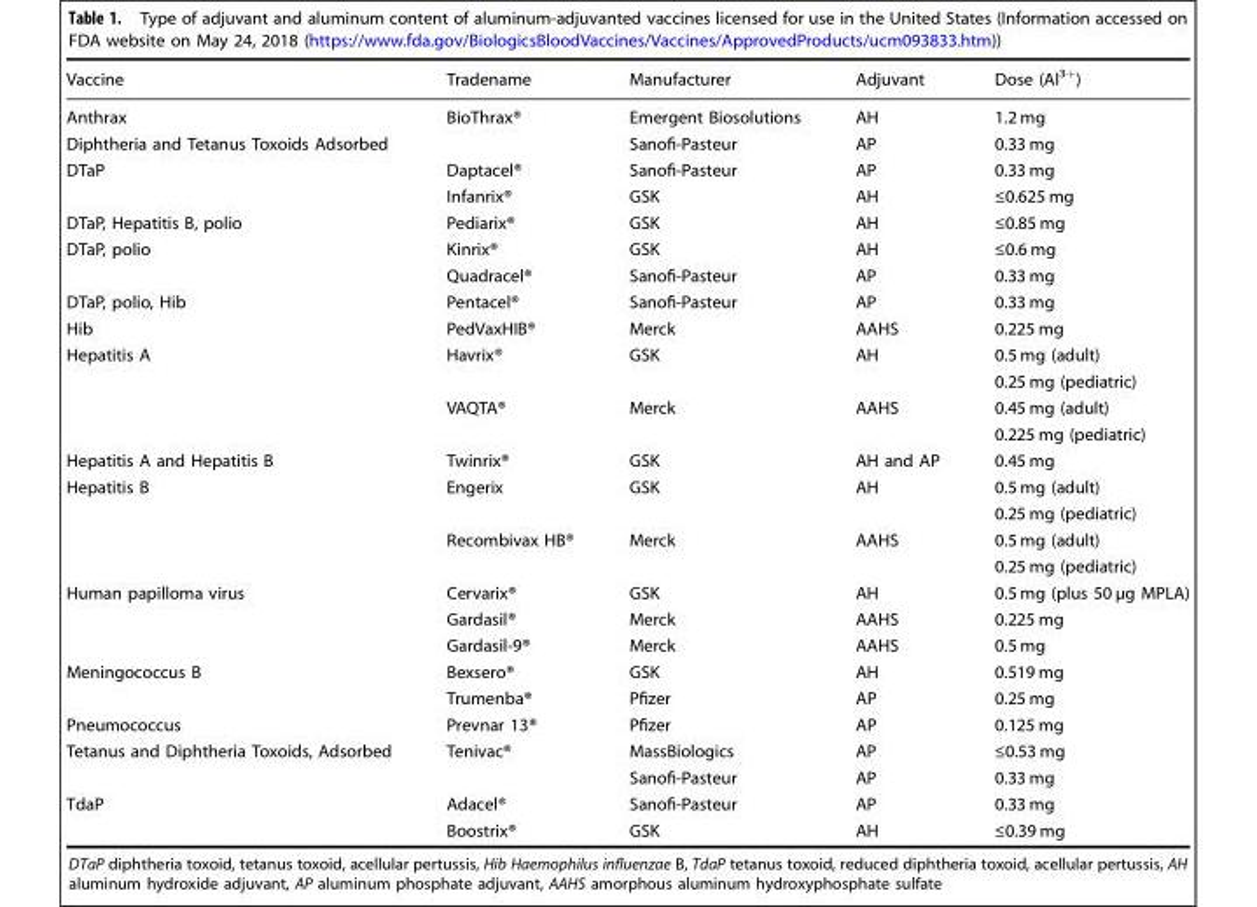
<table><thead><tr><td>Vaccine</td><td>Tradename</td><td>Manufacturer</td><td>Adjuvant</td><td>Dose (Al<sup>3+</sup>)</td></tr></thead><tbody><tr><td>Anthrax</td><td>BioThrax®</td><td>Emergent Biosolutions</td><td>AH</td><td>1.2 mg</td></tr><tr><td>Diphtheria and Tetanus Toxoids Adsorbed</td><td></td><td>Sanofi-Pasteur</td><td>AP</td><td>0.33 mg</td></tr><tr><td rowspan="2">DTaP</td><td>Daptacel®</td><td>Sanofi-Pasteur</td><td>AP</td><td>0.33 mg</td></tr><tr><td>Infanrix®</td><td>GSK</td><td>AH</td><td>≤0.625 mg</td></tr><tr><td>DTaP, Hepatitis B, polio</td><td>Pediarix®</td><td>GSK</td><td>AH</td><td>≤0.85 mg</td></tr><tr><td rowspan="2">DTaP, polio</td><td>Kinrix®</td><td>GSK</td><td>AH</td><td>≤0.6 mg</td></tr><tr><td>Quadracel®</td><td>Sanofi-Pasteur</td><td>AP</td><td>0.33 mg</td></tr><tr><td>DTaP, polio, Hib</td><td>Pentacel®</td><td>Sanofi-Pasteur</td><td>AP</td><td>0.33 mg</td></tr><tr><td>Hib</td><td>PedVaxHIB®</td><td>Merck</td><td>AAHS</td><td>0.225 mg</td></tr><tr><td rowspan="4">Hepatitis A</td><td rowspan="2">Havrix®</td><td rowspan="2">GSK</td><td rowspan="2">AH</td><td>0.5 mg (adult)</td></tr><tr><td>0.25 mg (pediatric)</td></tr><tr><td rowspan="2">VAQTA®</td><td rowspan="2">Merck</td><td rowspan="2">AAHS</td><td>0.45 mg (adult)</td></tr><tr><td>0.225 mg (pediatric)</td></tr><tr><td>Hepatitis A and Hepatitis B</td><td>Twinrix®</td><td>GSK</td><td>AH and AP</td><td>0.45 mg</td></tr><tr><td rowspan="4">Hepatitis B</td><td rowspan="2">Engerix</td><td rowspan="2">GSK</td><td rowspan="2">AH</td><td>0.5 mg (adult)</td></tr><tr><td>0.25 mg (pediatric)</td></tr><tr><td rowspan="2">Recombivax HB®</td><td rowspan="2">Merck</td><td rowspan="2">AAHS</td><td>0.5 mg (adult)</td></tr><tr><td>0.25 mg (pediatric)</td></tr><tr><td rowspan="3">Human papilloma virus</td><td>Cervarix®</td><td>GSK</td><td>AH</td><td>0.5 mg (plus 50 µg MPLA)</td></tr><tr><td>Gardasil®</td><td>Merck</td><td>AAHS</td><td>0.225 mg</td></tr><tr><td>Gardasil-9®</td><td>Merck</td><td>AAHS</td><td>0.5 mg</td></tr><tr><td rowspan="2">Meningococcus B</td><td>Bexsero®</td><td>GSK</td><td>AH</td><td>0.519 mg</td></tr><tr><td>Trumenba®</td><td>Pfizer</td><td>AP</td><td>0.25 mg</td></tr><tr><td>Pneumococcus</td><td>Prevnar 13®</td><td>Pfizer</td><td>AP</td><td>0.125 mg</td></tr><tr><td rowspan="2">Tetanus and Diphtheria Toxoids, Adsorbed</td><td rowspan="2">Tenivac®</td><td>MassBiologics</td><td>AP</td><td>≤0.53 mg</td></tr><tr><td>Sanofi-Pasteur</td><td>AP</td><td>0.33 mg</td></tr><tr><td rowspan="2">TdaP</td><td>Adacel®</td><td>Sanofi-Pasteur</td><td>AP</td><td>0.33 mg</td></tr><tr><td>Boostrix®</td><td>GSK</td><td>AH</td><td>≤0.39 mg</td></tr></tbody></table>